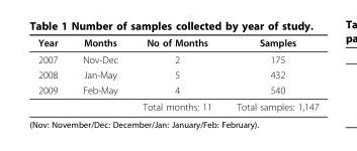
<table><thead><tr><td>Year</td><td>Months</td><td>No of Months</td><td>Samples</td></tr></thead><tbody><tr><td>2007</td><td>Nov-Dec</td><td>2</td><td>175</td></tr><tr><td>2008</td><td>Jan-May</td><td>5</td><td>432</td></tr><tr><td rowspan="2">2009</td><td>Feb-May</td><td>4</td><td>540</td></tr><tr><td></td><td>Total months: 11</td><td>Total samples: 1,147</td></tr></tbody></table>